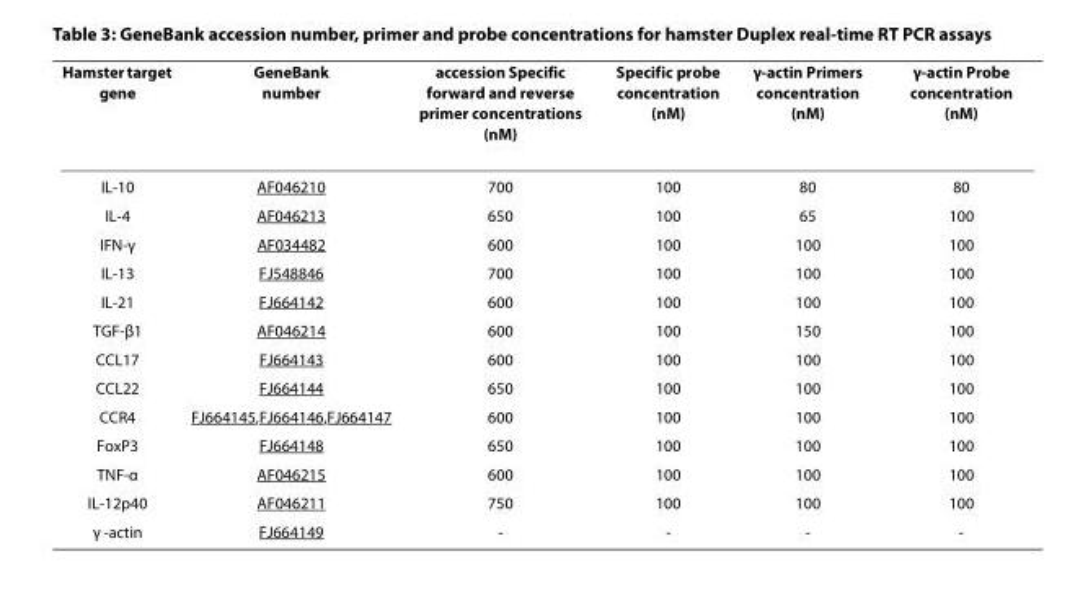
<table><thead><tr><td>Hamster target gene</td><td>GeneBank number</td><td>accession Specific forward and reverse primer concentrations (nM)</td><td>Specific probe concentration (nM)</td><td>γ-actin Primers concentration (nM)</td><td>γ-actin Probe concentration (nM)</td></tr></thead><tbody><tr><td>IL-10</td><td>AF046210</td><td>700</td><td>100</td><td>80</td><td>80</td></tr><tr><td>IL-4</td><td>AF046213</td><td>650</td><td>100</td><td>65</td><td>100</td></tr><tr><td>IFN-γ</td><td>AF034482</td><td>600</td><td>100</td><td>100</td><td>100</td></tr><tr><td>IL-13</td><td>FJ548846</td><td>700</td><td>100</td><td>100</td><td>100</td></tr><tr><td>IL-21</td><td>FJ664142</td><td>600</td><td>100</td><td>100</td><td>100</td></tr><tr><td>TGF-β1</td><td>AF046214</td><td>600</td><td>100</td><td>150</td><td>100</td></tr><tr><td>CCL17</td><td>FJ664143</td><td>600</td><td>100</td><td>100</td><td>100</td></tr><tr><td>CCL22</td><td>FJ664144</td><td>650</td><td>100</td><td>100</td><td>100</td></tr><tr><td>CCR4</td><td>FJ664145,FJ664146,FJ664147</td><td>600</td><td>100</td><td>100</td><td>100</td></tr><tr><td>FoxP3</td><td>FJ664148</td><td>650</td><td>100</td><td>100</td><td>100</td></tr><tr><td>TNF-α</td><td>AF046215</td><td>600</td><td>100</td><td>100</td><td>100</td></tr><tr><td>IL-12p40</td><td>AF046211</td><td>750</td><td>100</td><td>100</td><td>100</td></tr><tr><td>γ -actin</td><td>FJ664149</td><td>-</td><td>-</td><td>-</td><td>-</td></tr></tbody></table>